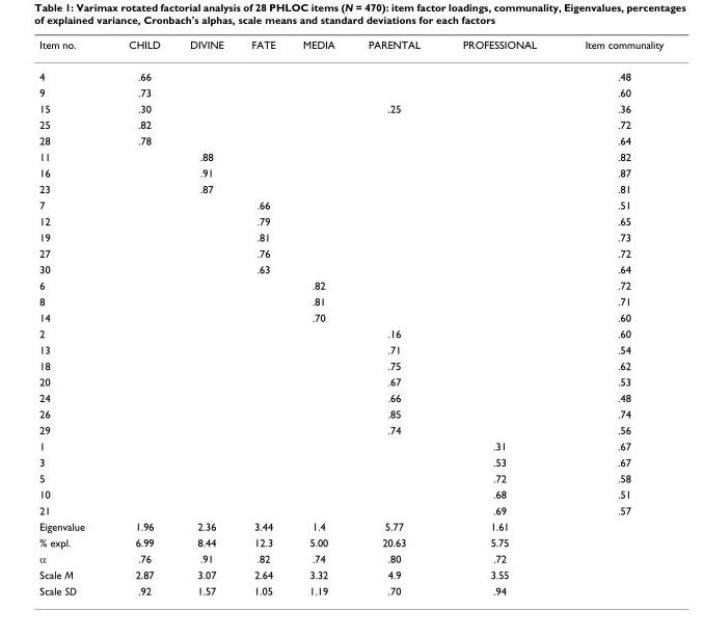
<table><thead><tr><td>Item no.</td><td>CHILD</td><td>DIVINE</td><td>FATE</td><td>MEDIA</td><td>PARENTAL</td><td>PROFESSIONAL</td><td>Item communality</td></tr></thead><tbody><tr><td>4</td><td>.66</td><td></td><td></td><td></td><td></td><td></td><td>.48</td></tr><tr><td>9</td><td>.73</td><td></td><td></td><td></td><td></td><td></td><td>.60</td></tr><tr><td>15</td><td>.30</td><td></td><td></td><td></td><td>.25</td><td></td><td>.36</td></tr><tr><td>25</td><td>.82</td><td></td><td></td><td></td><td></td><td></td><td>.72</td></tr><tr><td>28</td><td>.78</td><td></td><td></td><td></td><td></td><td></td><td>.64</td></tr><tr><td>11</td><td></td><td>.88</td><td></td><td></td><td></td><td></td><td>.82</td></tr><tr><td>16</td><td></td><td>.91</td><td></td><td></td><td></td><td></td><td>.87</td></tr><tr><td>23</td><td></td><td>.87</td><td></td><td></td><td></td><td></td><td>.81</td></tr><tr><td>7</td><td></td><td></td><td>.66</td><td></td><td></td><td></td><td>.51</td></tr><tr><td>12</td><td></td><td></td><td>.79</td><td></td><td></td><td></td><td>.65</td></tr><tr><td>19</td><td></td><td></td><td>.81</td><td></td><td></td><td></td><td>.73</td></tr><tr><td>27</td><td></td><td></td><td>.76</td><td></td><td></td><td></td><td>.72</td></tr><tr><td>30</td><td></td><td></td><td>.63</td><td></td><td></td><td></td><td>.64</td></tr><tr><td>6</td><td></td><td></td><td></td><td>.82</td><td></td><td></td><td>.72</td></tr><tr><td>8</td><td></td><td></td><td></td><td>.81</td><td></td><td></td><td>.71</td></tr><tr><td>14</td><td></td><td></td><td></td><td>.70</td><td></td><td></td><td>.60</td></tr><tr><td>2</td><td></td><td></td><td></td><td></td><td>.16</td><td></td><td>.60</td></tr><tr><td>13</td><td></td><td></td><td></td><td></td><td>.71</td><td></td><td>.54</td></tr><tr><td>18</td><td></td><td></td><td></td><td></td><td>.75</td><td></td><td>.62</td></tr><tr><td>20</td><td></td><td></td><td></td><td></td><td>.67</td><td></td><td>.53</td></tr><tr><td>24</td><td></td><td></td><td></td><td></td><td>.66</td><td></td><td>.48</td></tr><tr><td>26</td><td></td><td></td><td></td><td></td><td>.85</td><td></td><td>.74</td></tr><tr><td>29</td><td></td><td></td><td></td><td></td><td>.74</td><td></td><td>.56</td></tr><tr><td>1</td><td></td><td></td><td></td><td></td><td></td><td>.31</td><td>.67</td></tr><tr><td>3</td><td></td><td></td><td></td><td></td><td></td><td>.53</td><td>.67</td></tr><tr><td>5</td><td></td><td></td><td></td><td></td><td></td><td>.72</td><td>.58</td></tr><tr><td>10</td><td></td><td></td><td></td><td></td><td></td><td>.68</td><td>.51</td></tr><tr><td>21</td><td></td><td></td><td></td><td></td><td></td><td>.69</td><td>.57</td></tr><tr><td>Eigenvalue</td><td>1.96</td><td>2.36</td><td>3.44</td><td>1.4</td><td>5.77</td><td>1.61</td><td></td></tr><tr><td>% expl.</td><td>6.99</td><td>8.44</td><td>12.3</td><td>5.00</td><td>20.63</td><td>5.75</td><td></td></tr><tr><td>α</td><td>.76</td><td>.91</td><td>.82</td><td>.74</td><td>.80</td><td>.72</td><td></td></tr><tr><td>Scale M</td><td>2.87</td><td>3.07</td><td>2.64</td><td>3.32</td><td>4.9</td><td>3.55</td><td></td></tr><tr><td>Scale SD</td><td>.92</td><td>1.57</td><td>1.05</td><td>1.19</td><td>.70</td><td>.94</td><td></td></tr></tbody></table>